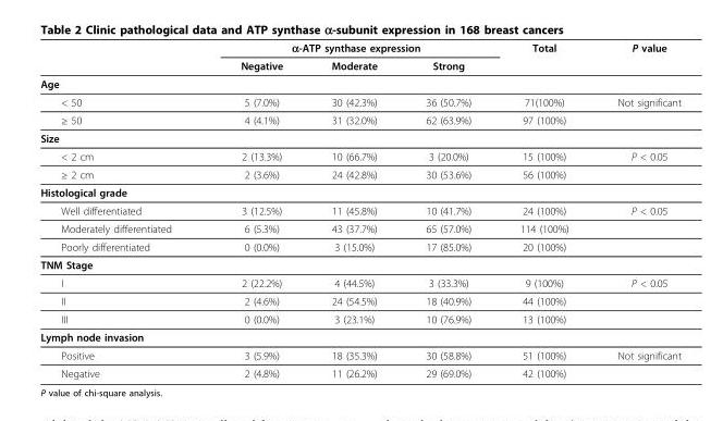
<table><thead><tr><td rowspan="2"></td><td colspan="3">α-ATP synthase expression</td><td rowspan="2">Total</td><td rowspan="2">P value</td></tr><tr><td>Negative</td><td>Moderate</td><td>Strong</td></tr></thead><tbody><tr><td colspan="6">Age</td></tr><tr><td>&lt; 50</td><td>5 (7.0%)</td><td>30 (42.3%)</td><td>36 (50.7%)</td><td>71(100%)</td><td>Not significant</td></tr><tr><td>≥ 50</td><td>4 (4.1%)</td><td>31 (32.0%)</td><td>62 (63.9%)</td><td>97 (100%)</td><td></td></tr><tr><td colspan="6">Size</td></tr><tr><td>&lt; 2 cm</td><td>2 (13.3%)</td><td>10 (66.7%)</td><td>3 (20.0%)</td><td>15 (100%)</td><td>P &lt; 0.05</td></tr><tr><td>≥ 2 cm</td><td>2 (3.6%)</td><td>24 (42.8%)</td><td>30 (53.6%)</td><td>56 (100%)</td><td></td></tr><tr><td colspan="6">Histological grade</td></tr><tr><td>Well differentiated</td><td>3 (12.5%)</td><td>11 (45.8%)</td><td>10 (41.7%)</td><td>24 (100%)</td><td>P &lt; 0.05</td></tr><tr><td>Moderately differentiated</td><td>6 (5.3%)</td><td>43 (37.7%)</td><td>65 (57.0%)</td><td>114 (100%)</td><td></td></tr><tr><td>Poorly differentiated</td><td>0 (0.0%)</td><td>3 (15.0%)</td><td>17 (85.0%)</td><td>20 (100%)</td><td></td></tr><tr><td colspan="6">TNM Stage</td></tr><tr><td>I</td><td>2 (22.2%)</td><td>4 (44.5%)</td><td>3 (33.3%)</td><td>9 (100%)</td><td>P &lt; 0.05</td></tr><tr><td>II</td><td>2 (4.6%)</td><td>24 (54.5%)</td><td>18 (40.9%)</td><td>44 (100%)</td><td></td></tr><tr><td>III</td><td>0 (0.0%)</td><td>3 (23.1%)</td><td>10 (76.9%)</td><td>13 (100%)</td><td></td></tr><tr><td colspan="6">Lymph node invasion</td></tr><tr><td>Positive</td><td>3 (5.9%)</td><td>18 (35.3%)</td><td>30 (58.8%)</td><td>51 (100%)</td><td>Not significant</td></tr><tr><td>Negative</td><td>2 (4.8%)</td><td>11 (26.2%)</td><td>29 (69.0%)</td><td>42 (100%)</td><td></td></tr></tbody></table>